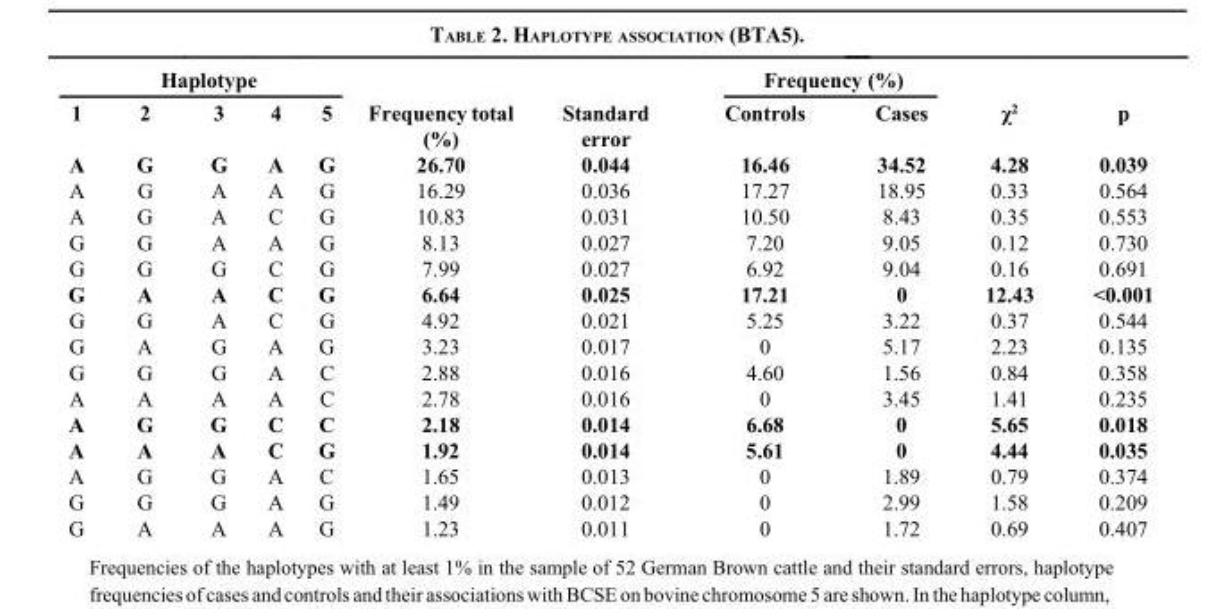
<table><thead><tr><td colspan="5">Haplotype</td><td rowspan="2">Frequency total (%)</td><td rowspan="2">Standard error</td><td colspan="2">Frequency (%)</td><td rowspan="2">χ<sup>2</sup></td><td rowspan="2">p</td></tr><tr><td>1</td><td>2</td><td>3</td><td>4</td><td>5</td><td>Controls</td><td>Cases</td></tr></thead><tbody><tr><td>A</td><td>G</td><td>G</td><td>A</td><td>G</td><td>26.70</td><td>0.044</td><td>16.46</td><td>34.52</td><td>4.28</td><td>0.039</td></tr><tr><td>A</td><td>G</td><td>A</td><td>A</td><td>G</td><td>16.29</td><td>0.036</td><td>17.27</td><td>18.95</td><td>0.33</td><td>0.564</td></tr><tr><td>A</td><td>G</td><td>A</td><td>C</td><td>G</td><td>10.83</td><td>0.031</td><td>10.50</td><td>8.43</td><td>0.35</td><td>0.553</td></tr><tr><td>G</td><td>G</td><td>A</td><td>A</td><td>G</td><td>8.13</td><td>0.027</td><td>7.20</td><td>9.05</td><td>0.12</td><td>0.730</td></tr><tr><td>G</td><td>G</td><td>G</td><td>C</td><td>G</td><td>7.99</td><td>0.027</td><td>6.92</td><td>9.04</td><td>0.16</td><td>0.691</td></tr><tr><td>G</td><td>A</td><td>A</td><td>C</td><td>G</td><td>6.64</td><td>0.025</td><td>17.21</td><td>0</td><td>12.43</td><td>&lt;0.001</td></tr><tr><td>G</td><td>G</td><td>A</td><td>C</td><td>G</td><td>4.92</td><td>0.021</td><td>5.25</td><td>3.22</td><td>0.37</td><td>0.544</td></tr><tr><td>G</td><td>A</td><td>G</td><td>A</td><td>G</td><td>3.23</td><td>0.017</td><td>0</td><td>5.17</td><td>2.23</td><td>0.135</td></tr><tr><td>G</td><td>G</td><td>G</td><td>A</td><td>C</td><td>2.88</td><td>0.016</td><td>4.60</td><td>1.56</td><td>0.84</td><td>0.358</td></tr><tr><td>A</td><td>A</td><td>A</td><td>A</td><td>C</td><td>2.78</td><td>0.016</td><td>0</td><td>3.45</td><td>1.41</td><td>0.235</td></tr><tr><td>A</td><td>G</td><td>G</td><td>C</td><td>C</td><td>2.18</td><td>0.014</td><td>6.68</td><td>0</td><td>5.65</td><td>0.018</td></tr><tr><td>A</td><td>A</td><td>A</td><td>C</td><td>G</td><td>1.92</td><td>0.014</td><td>5.61</td><td>0</td><td>4.44</td><td>0.035</td></tr><tr><td>A</td><td>G</td><td>G</td><td>A</td><td>C</td><td>1.65</td><td>0.013</td><td>0</td><td>1.89</td><td>0.79</td><td>0.374</td></tr><tr><td>G</td><td>G</td><td>G</td><td>A</td><td>G</td><td>1.49</td><td>0.012</td><td>0</td><td>2.99</td><td>1.58</td><td>0.209</td></tr><tr><td>G</td><td>A</td><td>A</td><td>A</td><td>G</td><td>1.23</td><td>0.011</td><td>0</td><td>1.72</td><td>0.69</td><td>0.407</td></tr></tbody></table>